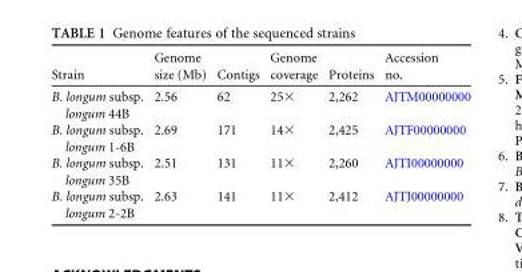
<table><thead><tr><td>Strain</td><td>Genome size (Mb)</td><td>Contigs</td><td>Genome coverage</td><td>Proteins</td><td>Accession no.</td></tr></thead><tbody><tr><td>B. longum subsp. longum 44B</td><td>2.56</td><td>62</td><td>25×</td><td>2,262</td><td>AJTM00000000</td></tr><tr><td>B. longum subsp. longum 1-6B</td><td>2.69</td><td>171</td><td>14×</td><td>2,425</td><td>AJTF00000000</td></tr><tr><td>B. longum subsp. longum 35B</td><td>2.51</td><td>131</td><td>11×</td><td>2,260</td><td>AJTI00000000</td></tr><tr><td>B. longum subsp. longum 2-2B</td><td>2.63</td><td>141</td><td>11×</td><td>2,412</td><td>AJTJ00000000</td></tr></tbody></table>